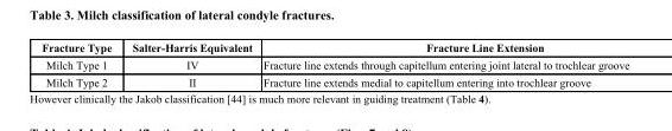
<table><thead><tr><td>Fracture Type</td><td>Salter-Harris Equivalent</td><td>Fracture Line Extension</td></tr></thead><tbody><tr><td>Milch Type 1</td><td>IV</td><td>Fracture line extends through capitellum entering joint lateral to trochlear groove</td></tr><tr><td>Milch Type 2</td><td>II</td><td>Fracture line extends medial to capitellum entering into trochlear groove</td></tr></tbody></table>